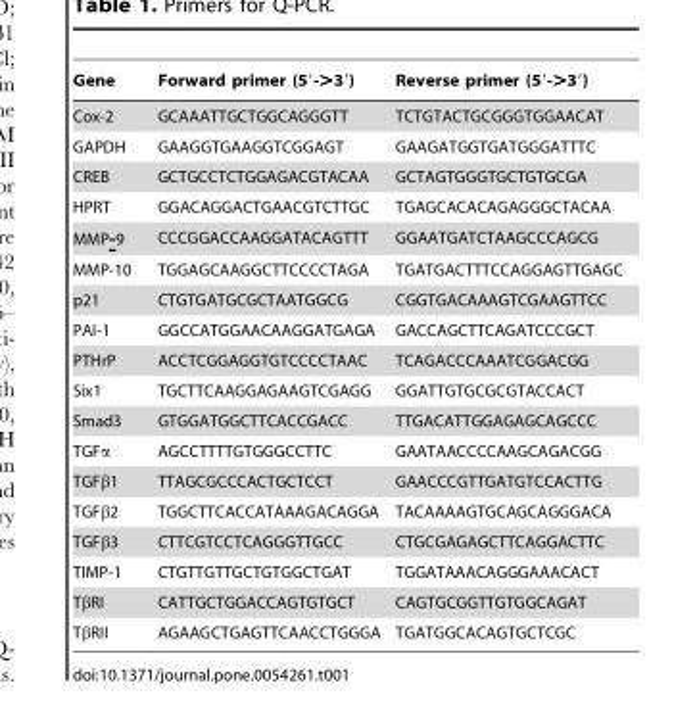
<table><thead><tr><td>Gene</td><td>Forward primer (5′-&gt;3′)</td><td>Reverse primer (5′-&gt;3′)</td></tr></thead><tbody><tr><td>Cox-2</td><td>GCAAATTGCTGGCAGGGTT</td><td>TCTGTACTGCGGGTGGAACAT</td></tr><tr><td>GAPDH</td><td>GAAGGTGAAGGTCGGAGT</td><td>GAAGATGGTGATGGGATTTC</td></tr><tr><td>CREB</td><td>GCTGCCTCTGGAGACGTACAA</td><td>GCTAGTGGGTGCTGTGCGA</td></tr><tr><td>HPRT</td><td>GGACAGGACTGAACGTCTTGC</td><td>TGAGCACACAGAGGGCTACAA</td></tr><tr><td>MMP-9</td><td>CCCGGACCAAGGATACAGTTT</td><td>GGAATGATCTAAGCCCAGCG</td></tr><tr><td>MMP-10</td><td>TGGAGCAAGGCTTCCCCTAGA</td><td>TGATGACTTTCCAGGAGTTGAGC</td></tr><tr><td>p21</td><td>CTGTGATGCGCTAATGGCG</td><td>CGGTGACAAAGTCGAAGTTCC</td></tr><tr><td>PAI-1</td><td>GGCCATGGAACAAGGATGAGA</td><td>GACCAGCTTCAGATCCCGCT</td></tr><tr><td>PTHrP</td><td>ACCTCGGAGGTGTCCCCTAAC</td><td>TCAGACCCAAATCGGACGG</td></tr><tr><td>Six1</td><td>TGCTTCAAGGAGAAGTCGAGG</td><td>GGATTGTGCGCGTACCACT</td></tr><tr><td>Smad3</td><td>GTGGATGGCTTCACCGACC</td><td>TTGACATTGGAGAGCAGCCC</td></tr><tr><td>TGFα</td><td>AGCCTTTTGTGGGCCTTC</td><td>GAATAACCCCAAGCAGACGG</td></tr><tr><td>TGFβ1</td><td>TTAGCGCCCACTGCTCCT</td><td>GAACCCGTTGATGTCCACTTG</td></tr><tr><td>TGFβ2</td><td>TGGCTTCACCATAAAGACAGGA</td><td>TACAAAAGTGCAGCAGGGACA</td></tr><tr><td>TGFβ3</td><td>CTTCGTCCTCAGGGTTGCC</td><td>CTGCGAGAGCTTCAGGACTTC</td></tr><tr><td>TIMP-1</td><td>CTGTTGTTGCTGTGGCTGAT</td><td>TGGATAAACAGGGAAACACT</td></tr><tr><td>TβRI</td><td>CATTGCTGGACCAGTGTGCT</td><td>CAGTGCGGTTGTGGCAGAT</td></tr><tr><td>TβRII</td><td>AGAAGCTGAGTTCAACCTGGGA</td><td>TGATGGCACAGTGCTCGC</td></tr></tbody></table>